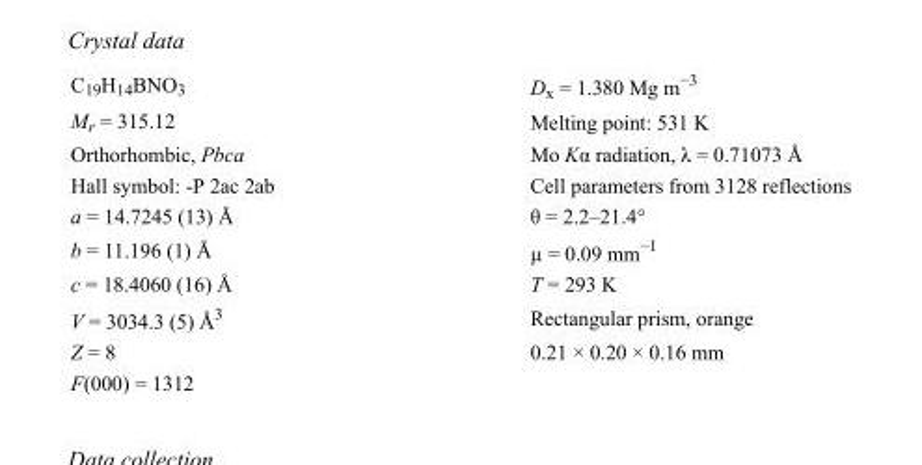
<table><tbody><tr><td>C<sub>19</sub>H<sub>14</sub>BNO<sub>3</sub></td><td>D<sub>x</sub> = 1.380 Mg m<sup>−3</sup></td></tr><tr><td>M<sub>r</sub> = 315.12</td><td>Melting point: 531 K</td></tr><tr><td>Orthorhombic, Pbca</td><td>Mo Kα radiation, λ = 0.71073 Å</td></tr><tr><td>Hall symbol: -P 2ac 2ab</td><td>Cell parameters from 3128 reflections</td></tr><tr><td>a = 14.7245 (13) Å</td><td>θ = 2.2–21.4°</td></tr><tr><td>b = 11.196 (1) Å</td><td>µ = 0.09 mm<sup>−1</sup></td></tr><tr><td>c = 18.4060 (16) Å</td><td>T = 293 K</td></tr><tr><td>V = 3034.3 (5) Å<sup>3</sup></td><td>Rectangular prism, orange</td></tr><tr><td>Z = 8</td><td>0.21 × 0.20 × 0.16 mm</td></tr><tr><td>F(000) = 1312</td><td></td></tr></tbody></table>